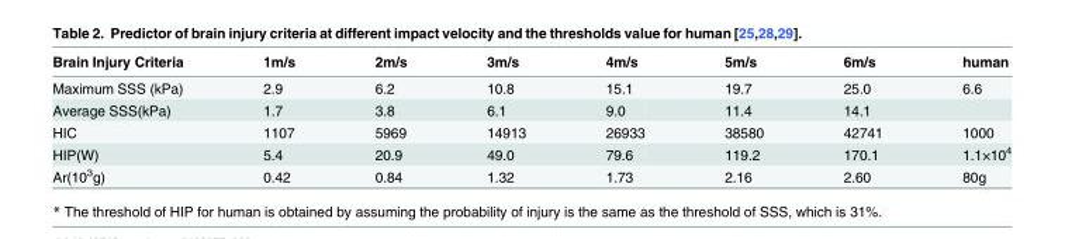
<table><thead><tr><td>Brain Injury Criteria</td><td>1m/s</td><td>2m/s</td><td>3m/s</td><td>4m/s</td><td>5m/s</td><td>6m/s</td><td>human</td></tr></thead><tbody><tr><td>Maximum SSS (kPa)</td><td>2.9</td><td>6.2</td><td>10.8</td><td>15.1</td><td>19.7</td><td>25.0</td><td>6.6</td></tr><tr><td>Average SSS(kPa)</td><td>1.7</td><td>3.8</td><td>6.1</td><td>9.0</td><td>11.4</td><td>14.1</td><td></td></tr><tr><td>HIC</td><td>1107</td><td>5969</td><td>14913</td><td>26933</td><td>38580</td><td>42741</td><td>1000</td></tr><tr><td>HIP(W)</td><td>5.4</td><td>20.9</td><td>49.0</td><td>79.6</td><td>119.2</td><td>170.1</td><td>1.1×10<sup>4</sup></td></tr><tr><td>Ar(10<sup>3</sup>g)</td><td>0.42</td><td>0.84</td><td>1.32</td><td>1.73</td><td>2.16</td><td>2.60</td><td>80g</td></tr></tbody></table>